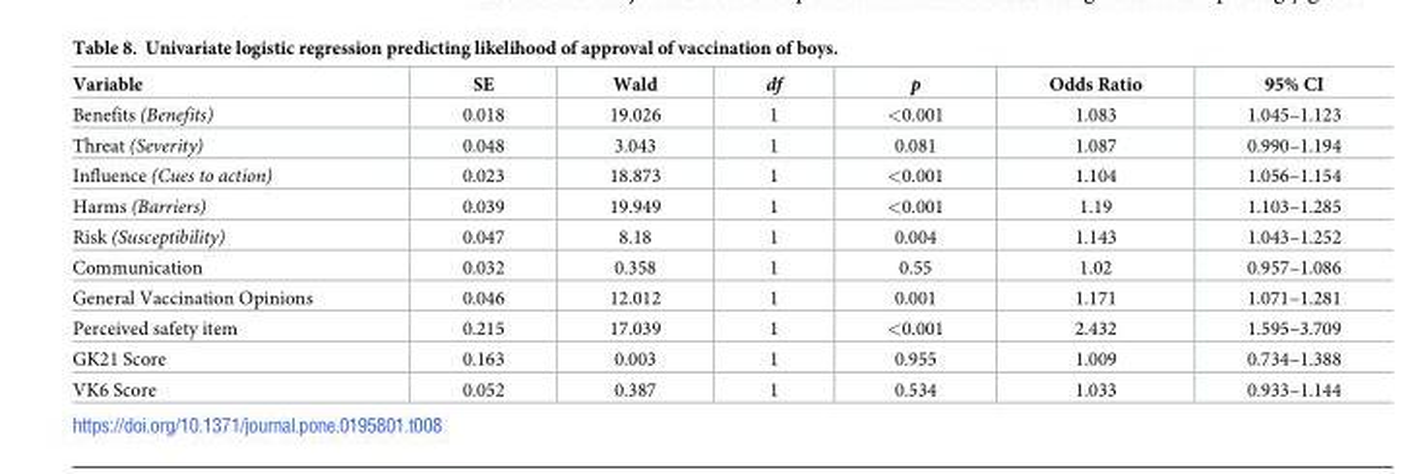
<table><thead><tr><td>Variable</td><td>SE</td><td>Wald</td><td>df</td><td>p</td><td>Odds Ratio</td><td>95% CI</td></tr></thead><tbody><tr><td>Benefits (Benefits)</td><td>0.018</td><td>19.026</td><td>1</td><td>&lt;0.001</td><td>1.083</td><td>1.045–1.123</td></tr><tr><td>Threat (Severity)</td><td>0.048</td><td>3.043</td><td>1</td><td>0.081</td><td>1.087</td><td>0.990–1.194</td></tr><tr><td>Influence (Cues to action)</td><td>0.023</td><td>18.873</td><td>1</td><td>&lt;0.001</td><td>1.104</td><td>1.056–1.154</td></tr><tr><td>Harms (Barriers)</td><td>0.039</td><td>19.949</td><td>1</td><td>&lt;0.001</td><td>1.19</td><td>1.103–1.285</td></tr><tr><td>Risk (Susceptibility)</td><td>0.047</td><td>8.18</td><td>1</td><td>0.004</td><td>1.143</td><td>1.043–1.252</td></tr><tr><td>Communication</td><td>0.032</td><td>0.358</td><td>1</td><td>0.55</td><td>1.02</td><td>0.957–1.086</td></tr><tr><td>General Vaccination Opinions</td><td>0.046</td><td>12.012</td><td>1</td><td>0.001</td><td>1.171</td><td>1.071–1.281</td></tr><tr><td>Perceived safety item</td><td>0.215</td><td>17.039</td><td>1</td><td>&lt;0.001</td><td>2.432</td><td>1.595–3.709</td></tr><tr><td>GK21 Score</td><td>0.163</td><td>0.003</td><td>1</td><td>0.955</td><td>1.009</td><td>0.734–1.388</td></tr><tr><td>VK6 Score</td><td>0.052</td><td>0.387</td><td>1</td><td>0.534</td><td>1.033</td><td>0.933–1.144</td></tr></tbody></table>